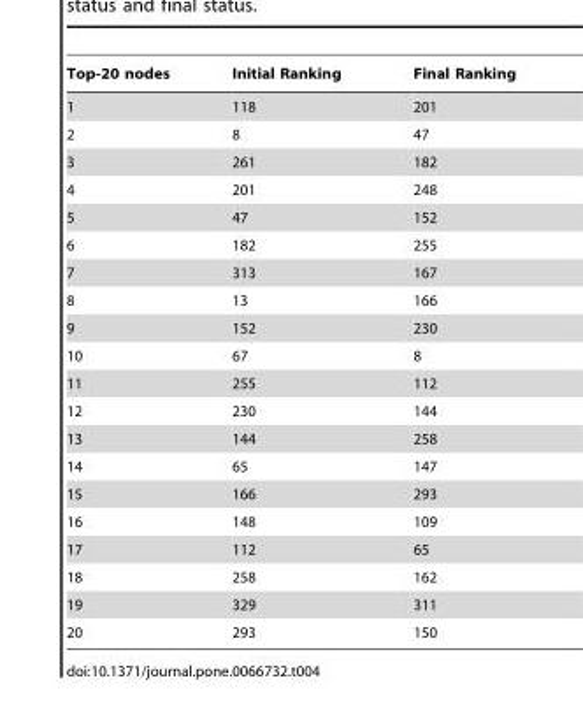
<table><thead><tr><td>Top-20 nodes</td><td>Initial Ranking</td><td>Final Ranking</td></tr></thead><tbody><tr><td>1</td><td>118</td><td>201</td></tr><tr><td>2</td><td>8</td><td>47</td></tr><tr><td>3</td><td>261</td><td>182</td></tr><tr><td>4</td><td>201</td><td>248</td></tr><tr><td>5</td><td>47</td><td>152</td></tr><tr><td>6</td><td>182</td><td>255</td></tr><tr><td>7</td><td>313</td><td>167</td></tr><tr><td>8</td><td>13</td><td>166</td></tr><tr><td>9</td><td>152</td><td>230</td></tr><tr><td>10</td><td>67</td><td>8</td></tr><tr><td>11</td><td>255</td><td>112</td></tr><tr><td>12</td><td>230</td><td>144</td></tr><tr><td>13</td><td>144</td><td>258</td></tr><tr><td>14</td><td>65</td><td>147</td></tr><tr><td>15</td><td>166</td><td>293</td></tr><tr><td>16</td><td>148</td><td>109</td></tr><tr><td>17</td><td>112</td><td>65</td></tr><tr><td>18</td><td>258</td><td>162</td></tr><tr><td>19</td><td>329</td><td>311</td></tr><tr><td>20</td><td>293</td><td>150</td></tr></tbody></table>